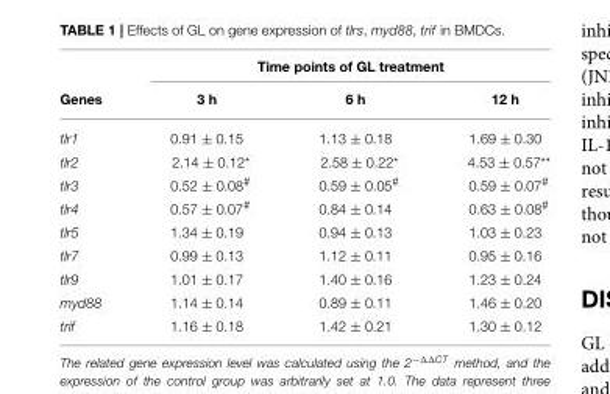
<table><thead><tr><td rowspan="2">Genes</td><td colspan="3">Time points of GL treatment</td></tr><tr><td>3 h</td><td>6 h</td><td>12 h</td></tr></thead><tbody><tr><td>tlr1</td><td>0.91 ± 0.15</td><td>1.13 ± 0.18</td><td>1.69 ± 0.30</td></tr><tr><td>tlr2</td><td>2.14 ± 0.12*</td><td>2.58 ± 0.22*</td><td>4.53 ± 0.57**</td></tr><tr><td>tlr3</td><td>0.52 ± 0.08<sup>#</sup></td><td>0.59 ± 0.05<sup>#</sup></td><td>0.59 ± 0.07<sup>#</sup></td></tr><tr><td>tlr4</td><td>0.57 ± 0.07<sup>#</sup></td><td>0.84 ± 0.14</td><td>0.63 ± 0.08<sup>#</sup></td></tr><tr><td>tlr5</td><td>1.34 ± 0.19</td><td>0.94 ± 0.13</td><td>1.03 ± 0.23</td></tr><tr><td>tlr7</td><td>0.99 ± 0.13</td><td>1.12 ± 0.11</td><td>0.95 ± 0.16</td></tr><tr><td>tlr9</td><td>1.01 ± 0.17</td><td>1.40 ± 0.16</td><td>1.23 ± 0.24</td></tr><tr><td>myd88</td><td>1.14 ± 0.14</td><td>0.89 ± 0.11</td><td>1.46 ± 0.20</td></tr><tr><td>trif</td><td>1.16 ± 0.18</td><td>1.42 ± 0.21</td><td>1.30 ± 0.12</td></tr></tbody></table>